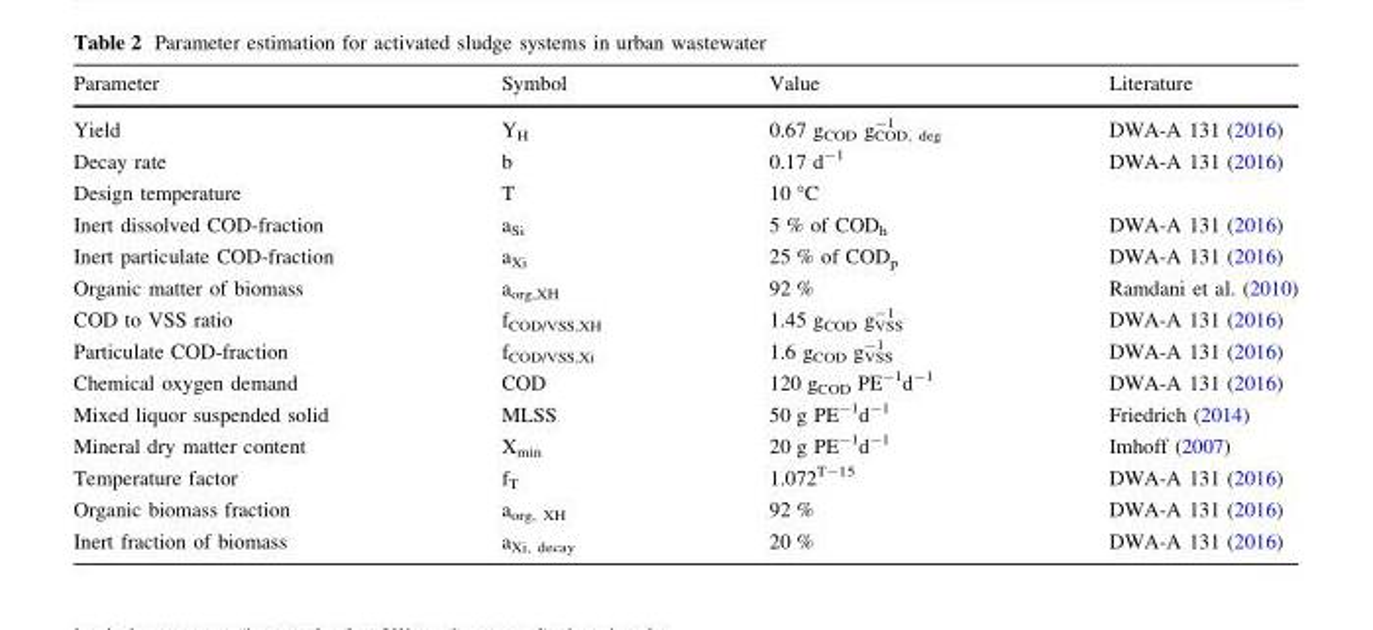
<table><thead><tr><td>Parameter</td><td>Symbol</td><td>Value</td><td>Literature</td></tr></thead><tbody><tr><td>Yield</td><td>Y<sub>H</sub></td><td>0.67 g<sub>COD</sub> g<sub>COD, deg</sub> <sup>-1</sup></td><td>DWA-A 131 (2016)</td></tr><tr><td>Decay rate</td><td>b</td><td>0.17 d<sup>-1</sup></td><td>DWA-A 131 (2016)</td></tr><tr><td>Design temperature</td><td>T</td><td>10 °C</td><td></td></tr><tr><td>Inert dissolved COD-fraction</td><td>a<sub>Si</sub></td><td>5 % of COD<sub>h</sub></td><td>DWA-A 131 (2016)</td></tr><tr><td>Inert particulate COD-fraction</td><td>a<sub>Xi</sub></td><td>25 % of COD<sub>p</sub></td><td>DWA-A 131 (2016)</td></tr><tr><td>Organic matter of biomass</td><td>a<sub>org,XH</sub></td><td>92 %</td><td>Ramdani et al. (2010)</td></tr><tr><td>COD to VSS ratio</td><td>f<sub>COD/VSS,XH</sub></td><td>1.45 g<sub>COD</sub> g<sub>VSS</sub> <sup>-1</sup></td><td>DWA-A 131 (2016)</td></tr><tr><td>Particulate COD-fraction</td><td>f<sub>COD/VSS,Xi</sub></td><td>1.6 g<sub>COD</sub> g<sub>VSS</sub> <sup>-1</sup></td><td>DWA-A 131 (2016)</td></tr><tr><td>Chemical oxygen demand</td><td>COD</td><td>120 g<sub>COD</sub> PE<sup>-1</sup>d<sup>-1</sup></td><td>DWA-A 131 (2016)</td></tr><tr><td>Mixed liquor suspended solid</td><td>MLSS</td><td>50 g PE<sup>-1</sup>d<sup>-1</sup></td><td>Friedrich (2014)</td></tr><tr><td>Mineral dry matter content</td><td>X<sub>min</sub></td><td>20 g PE<sup>-1</sup>d<sup>-1</sup></td><td>Imhoff (2007)</td></tr><tr><td>Temperature factor</td><td>f<sub>T</sub></td><td>1.072<sup>T-15</sup></td><td>DWA-A 131 (2016)</td></tr><tr><td>Organic biomass fraction</td><td>a<sub>org, XH</sub></td><td>92 %</td><td>DWA-A 131 (2016)</td></tr><tr><td>Inert fraction of biomass</td><td>a<sub>Xi, decay</sub></td><td>20 %</td><td>DWA-A 131 (2016)</td></tr></tbody></table>